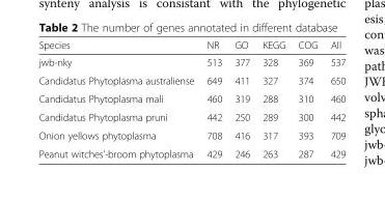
<table><thead><tr><td>Species</td><td>NR</td><td>GO</td><td>KEGG</td><td>COG</td><td>All</td></tr></thead><tbody><tr><td>jwb-nky</td><td>513</td><td>377</td><td>328</td><td>369</td><td>537</td></tr><tr><td>Candidatus Phytoplasma australiense</td><td>649</td><td>411</td><td>327</td><td>374</td><td>650</td></tr><tr><td>Candidatus Phytoplasma mali</td><td>460</td><td>319</td><td>288</td><td>310</td><td>460</td></tr><tr><td>Candidatus Phytoplasma pruni</td><td>442</td><td>250</td><td>289</td><td>300</td><td>442</td></tr><tr><td>Onion yellows phytoplasma</td><td>708</td><td>416</td><td>317</td><td>393</td><td>709</td></tr><tr><td>Peanut witches’-broom phytoplasma</td><td>429</td><td>246</td><td>263</td><td>287</td><td>429</td></tr></tbody></table>